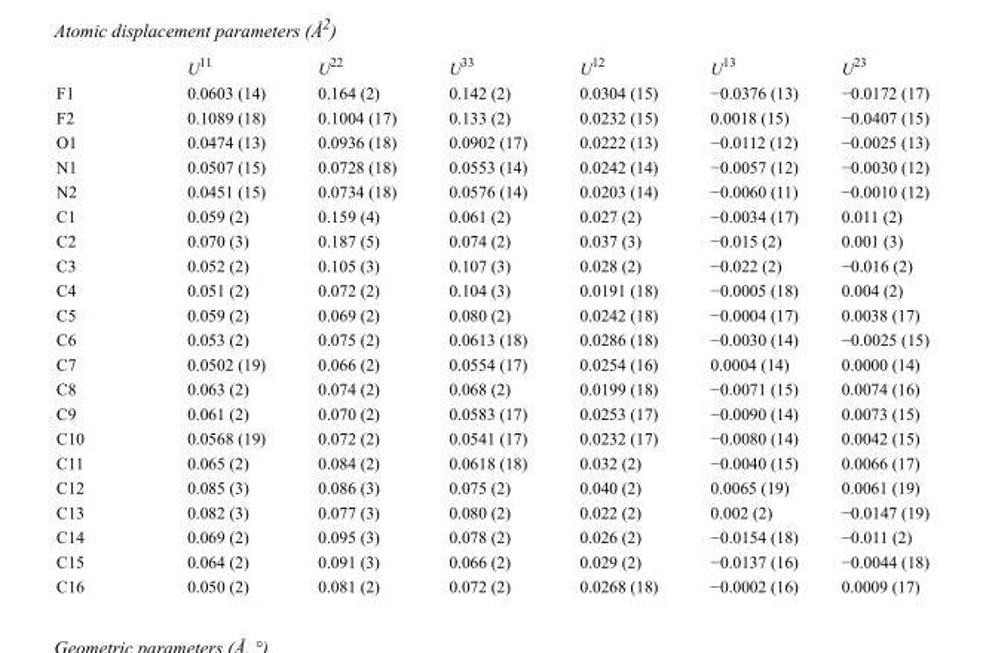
<table><thead><tr><td></td><td>U<sup>11</sup></td><td>U<sup>22</sup></td><td>U<sup>33</sup></td><td>U<sup>12</sup></td><td>U<sup>13</sup></td><td>U<sup>23</sup></td></tr></thead><tbody><tr><td>F1</td><td>0.0603 (14)</td><td>0.164 (2)</td><td>0.142 (2)</td><td>0.0304 (15)</td><td>−0.0376 (13)</td><td>−0.0172 (17)</td></tr><tr><td>F2</td><td>0.1089 (18)</td><td>0.1004 (17)</td><td>0.133 (2)</td><td>0.0232 (15)</td><td>0.0018 (15)</td><td>−0.0407 (15)</td></tr><tr><td>O1</td><td>0.0474 (13)</td><td>0.0936 (18)</td><td>0.0902 (17)</td><td>0.0222 (13)</td><td>−0.0112 (12)</td><td>−0.0025 (13)</td></tr><tr><td>N1</td><td>0.0507 (15)</td><td>0.0728 (18)</td><td>0.0553 (14)</td><td>0.0242 (14)</td><td>−0.0057 (12)</td><td>−0.0030 (12)</td></tr><tr><td>N2</td><td>0.0451 (15)</td><td>0.0734 (18)</td><td>0.0576 (14)</td><td>0.0203 (14)</td><td>−0.0060 (11)</td><td>−0.0010 (12)</td></tr><tr><td>C1</td><td>0.059 (2)</td><td>0.159 (4)</td><td>0.061 (2)</td><td>0.027 (2)</td><td>−0.0034 (17)</td><td>0.011 (2)</td></tr><tr><td>C2</td><td>0.070 (3)</td><td>0.187 (5)</td><td>0.074 (2)</td><td>0.037 (3)</td><td>−0.015 (2)</td><td>0.001 (3)</td></tr><tr><td>C3</td><td>0.052 (2)</td><td>0.105 (3)</td><td>0.107 (3)</td><td>0.028 (2)</td><td>−0.022 (2)</td><td>−0.016 (2)</td></tr><tr><td>C4</td><td>0.051 (2)</td><td>0.072 (2)</td><td>0.104 (3)</td><td>0.0191 (18)</td><td>−0.0005 (18)</td><td>0.004 (2)</td></tr><tr><td>C5</td><td>0.059 (2)</td><td>0.069 (2)</td><td>0.080 (2)</td><td>0.0242 (18)</td><td>−0.0004 (17)</td><td>0.0038 (17)</td></tr><tr><td>C6</td><td>0.053 (2)</td><td>0.075 (2)</td><td>0.0613 (18)</td><td>0.0286 (18)</td><td>−0.0030 (14)</td><td>−0.0025 (15)</td></tr><tr><td>C7</td><td>0.0502 (19)</td><td>0.066 (2)</td><td>0.0554 (17)</td><td>0.0254 (16)</td><td>0.0004 (14)</td><td>0.0000 (14)</td></tr><tr><td>C8</td><td>0.063 (2)</td><td>0.074 (2)</td><td>0.068 (2)</td><td>0.0199 (18)</td><td>−0.0071 (15)</td><td>0.0074 (16)</td></tr><tr><td>C9</td><td>0.061 (2)</td><td>0.070 (2)</td><td>0.0583 (17)</td><td>0.0253 (17)</td><td>−0.0090 (14)</td><td>0.0073 (15)</td></tr><tr><td>C10</td><td>0.0568 (19)</td><td>0.072 (2)</td><td>0.0541 (17)</td><td>0.0232 (17)</td><td>−0.0080 (14)</td><td>0.0042 (15)</td></tr><tr><td>C11</td><td>0.065 (2)</td><td>0.084 (2)</td><td>0.0618 (18)</td><td>0.032 (2)</td><td>−0.0040 (15)</td><td>0.0066 (17)</td></tr><tr><td>C12</td><td>0.085 (3)</td><td>0.086 (3)</td><td>0.075 (2)</td><td>0.040 (2)</td><td>0.0065 (19)</td><td>0.0061 (19)</td></tr><tr><td>C13</td><td>0.082 (3)</td><td>0.077 (3)</td><td>0.080 (2)</td><td>0.022 (2)</td><td>0.002 (2)</td><td>−0.0147 (19)</td></tr><tr><td>C14</td><td>0.069 (2)</td><td>0.095 (3)</td><td>0.078 (2)</td><td>0.026 (2)</td><td>−0.0154 (18)</td><td>−0.011 (2)</td></tr><tr><td>C15</td><td>0.064 (2)</td><td>0.091 (3)</td><td>0.066 (2)</td><td>0.029 (2)</td><td>−0.0137 (16)</td><td>−0.0044 (18)</td></tr><tr><td>C16</td><td>0.050 (2)</td><td>0.081 (2)</td><td>0.072 (2)</td><td>0.0268 (18)</td><td>−0.0002 (16)</td><td>0.0009 (17)</td></tr></tbody></table>